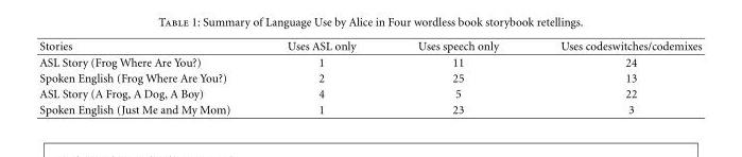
<table><thead><tr><td>Stories</td><td>Uses ASL only</td><td>Uses speech only</td><td>Uses codeswitches/codemixes</td></tr></thead><tbody><tr><td>ASL Story (Frog Where Are You?)</td><td>1</td><td>11</td><td>24</td></tr><tr><td>Spoken English (Frog Where Are You?)</td><td>2</td><td>25</td><td>13</td></tr><tr><td>ASL Story (A Frog, A Dog, A Boy)</td><td>4</td><td>5</td><td>22</td></tr><tr><td>Spoken English (Just Me and My Mom)</td><td>1</td><td>23</td><td>3</td></tr></tbody></table>